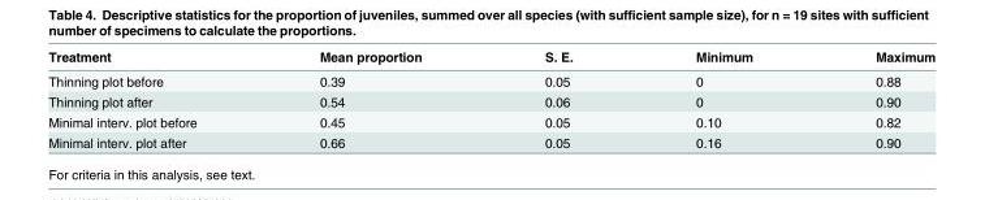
<table><thead><tr><td>Treatment</td><td>Mean proportion</td><td>S. E.</td><td>Minimum</td><td>Maximum</td></tr></thead><tbody><tr><td>Thinning plot before</td><td>0.39</td><td>0.05</td><td>0</td><td>0.88</td></tr><tr><td>Thinning plot after</td><td>0.54</td><td>0.06</td><td>0</td><td>0.90</td></tr><tr><td>Minimal interv. plot before</td><td>0.45</td><td>0.05</td><td>0.10</td><td>0.82</td></tr><tr><td>Minimal interv. plot after</td><td>0.66</td><td>0.05</td><td>0.16</td><td>0.90</td></tr></tbody></table>